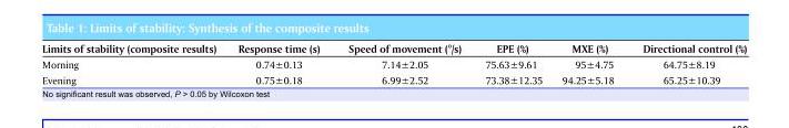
<table><thead><tr><td>Limits of stability (composite results)</td><td>Response time (s)</td><td>Speed of movement (°/s)</td><td>EPE (%)</td><td>MXE (%)</td><td>Directional control (%)</td></tr></thead><tbody><tr><td>Morning</td><td>0.74±0.13</td><td>7.14±2.05</td><td>75.63±9.61</td><td>95±4.75</td><td>64.75±8.19</td></tr><tr><td>Evening</td><td>0.75±0.18</td><td>6.99±2.52</td><td>73.38±12.35</td><td>94.25±5.18</td><td>65.25±10.39</td></tr></tbody></table>